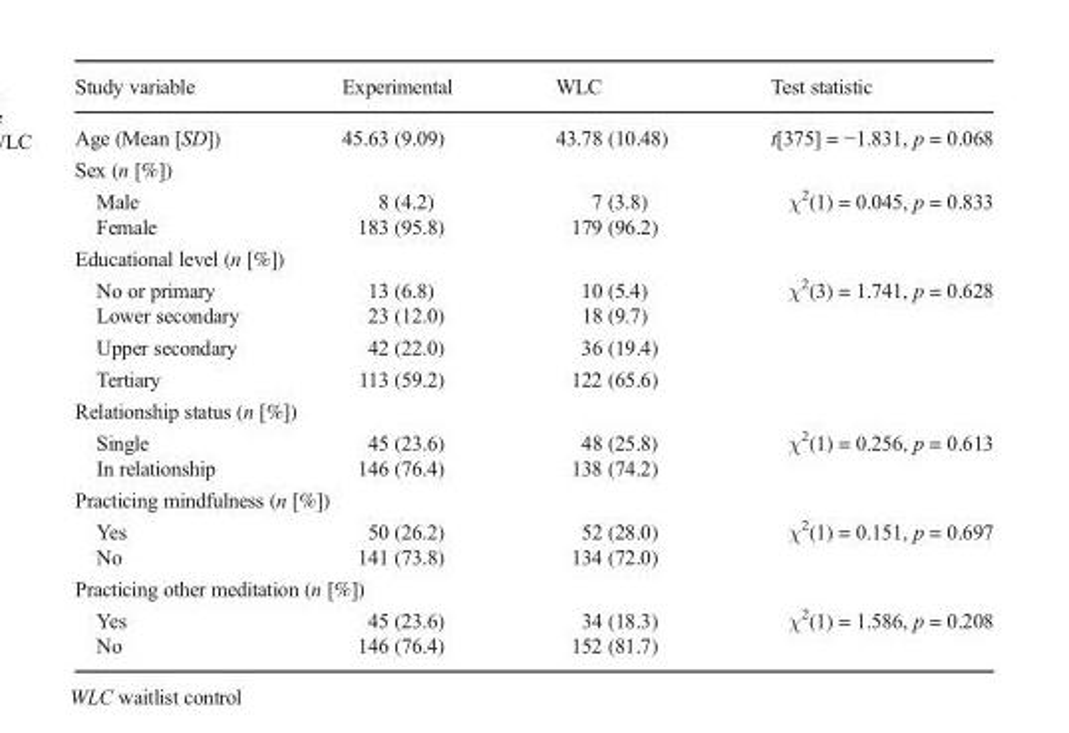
<table><thead><tr><td>Study variable</td><td>Experimental</td><td>WLC</td><td>Test statistic</td></tr></thead><tbody><tr><td>Age (Mean [SD])</td><td>45.63 (9.09)</td><td>43.78 (10.48)</td><td>t[375] = −1.831, p = 0.068</td></tr><tr><td colspan="4">Sex (n [%])</td></tr><tr><td>Male</td><td>8 (4.2)</td><td>7 (3.8)</td><td rowspan="2">χ<sup>2</sup>(1) = 0.045, p = 0.833</td></tr><tr><td>Female</td><td>183 (95.8)</td><td>179 (96.2)</td></tr><tr><td colspan="4">Educational level (n [%])</td></tr><tr><td>No or primary</td><td>13 (6.8)</td><td>10 (5.4)</td><td rowspan="4">χ<sup>2</sup>(3) = 1.741, p = 0.628</td></tr><tr><td>Lower secondary</td><td>23 (12.0)</td><td>18 (9.7)</td></tr><tr><td>Upper secondary</td><td>42 (22.0)</td><td>36 (19.4)</td></tr><tr><td>Tertiary</td><td>113 (59.2)</td><td>122 (65.6)</td></tr><tr><td colspan="4">Relationship status (n [%])</td></tr><tr><td>Single</td><td>45 (23.6)</td><td>48 (25.8)</td><td rowspan="2">χ<sup>2</sup>(1) = 0.256, p = 0.613</td></tr><tr><td>In relationship</td><td>146 (76.4)</td><td>138 (74.2)</td></tr><tr><td colspan="4">Practicing mindfulness (n [%])</td></tr><tr><td>Yes</td><td>50 (26.2)</td><td>52 (28.0)</td><td rowspan="2">χ<sup>2</sup>(1) = 0.151, p = 0.697</td></tr><tr><td>No</td><td>141 (73.8)</td><td>134 (72.0)</td></tr><tr><td colspan="4">Practicing other meditation (n [%])</td></tr><tr><td>Yes</td><td>45 (23.6)</td><td>34 (18.3)</td><td rowspan="2">χ<sup>2</sup>(1) = 1.586, p = 0.208</td></tr><tr><td>No</td><td>146 (76.4)</td><td>152 (81.7)</td></tr></tbody></table>